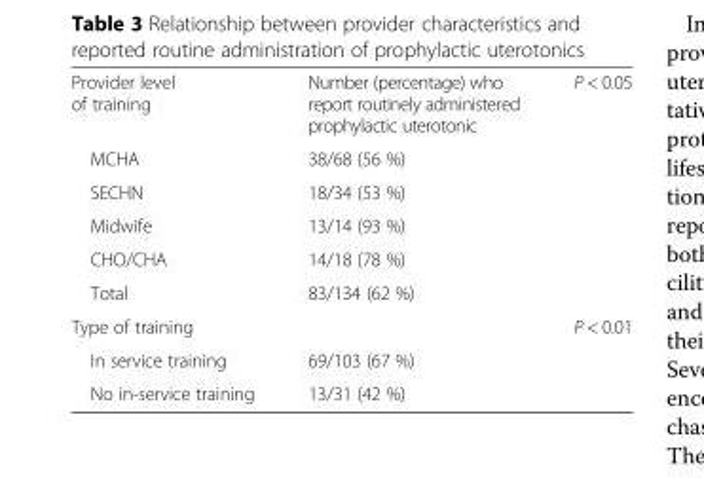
<table><tbody><tr><td>Provider level of training</td><td>Number (percentage) who report routinely administered prophylactic uterotonic</td><td rowspan="6">P &lt; 0.05</td></tr><tr><td>MCHA</td><td>38/68 (56 %)</td></tr><tr><td>SECHN</td><td>18/34 (53 %)</td></tr><tr><td>Midwife</td><td>13/14 (93 %)</td></tr><tr><td>CHO/CHA</td><td>14/18 (78 %)</td></tr><tr><td>Total</td><td>83/134 (62 %)</td></tr><tr><td colspan="2">Type of training</td><td rowspan="3">P &lt; 0.01</td></tr><tr><td>In service training</td><td>69/103 (67 %)</td></tr><tr><td>No in-service training</td><td>13/31 (42 %)</td></tr></tbody></table>